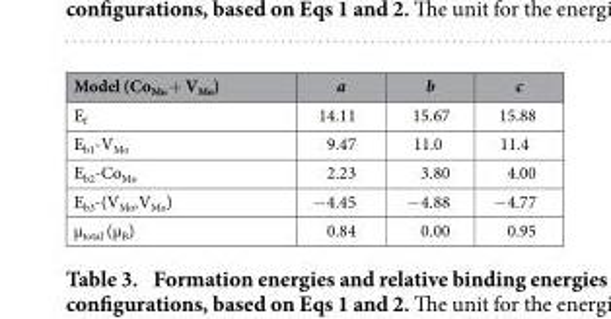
<table><thead><tr><td>Model (Co<sub>Mo</sub> + V<sub>Mo</sub>)</td><td>a</td><td>b</td><td>c</td></tr></thead><tbody><tr><td>E<sub>f</sub></td><td>14.11</td><td>15.67</td><td>15.88</td></tr><tr><td>E<sub>b1</sub>-V<sub>Mo</sub></td><td>9.47</td><td>11.0</td><td>11.4</td></tr><tr><td>E<sub>b2</sub>-Co<sub>Mo</sub></td><td>2.23</td><td>3.80</td><td>4.00</td></tr><tr><td>E<sub>b3</sub>-(V<sub>Mo</sub>,V<sub>Mo</sub>)</td><td>− 4.45</td><td>− 4.88</td><td>− 4.77</td></tr><tr><td>μ<sub>total</sub> (μ<sub>B</sub>)</td><td>0.84</td><td>0.00</td><td>0.95</td></tr></tbody></table>